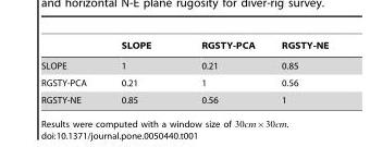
<table><thead><tr><td></td><td>SLOPE</td><td>RGSTY-PCA</td><td>RGSTY-NE</td></tr></thead><tbody><tr><td>SLOPE</td><td>1</td><td>0.21</td><td>0.85</td></tr><tr><td>RGSTY-PCA</td><td>0.21</td><td>1</td><td>0.56</td></tr><tr><td>RGSTY-NE</td><td>0.85</td><td>0.56</td><td>1</td></tr></tbody></table>